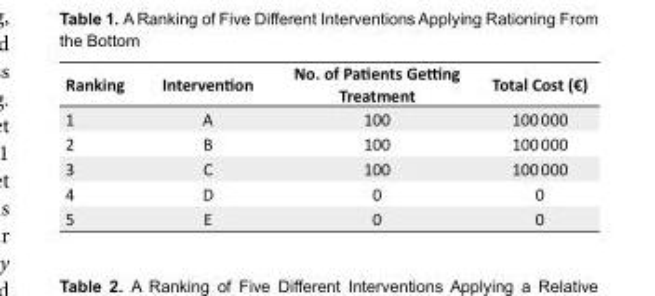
<table><tbody><tr><td>Ranking</td><td>Intervention</td><td>No. of Patients Getting Treatment</td><td>Total Cost (€)</td></tr><tr><td>1</td><td>A</td><td>100</td><td>100 000</td></tr><tr><td>2</td><td>B</td><td>100</td><td>100 000</td></tr><tr><td>3</td><td>C</td><td>100</td><td>100 000</td></tr><tr><td>4</td><td>D</td><td>0</td><td>0</td></tr><tr><td>5</td><td>E</td><td>0</td><td>0</td></tr></tbody></table>